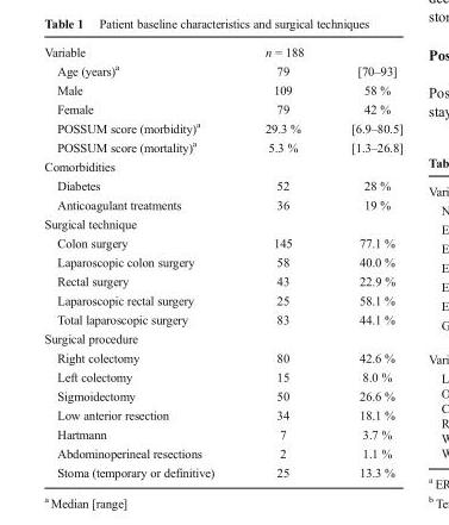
<table><tbody><tr><td>Variable</td><td colspan="2">n = 188</td></tr><tr><td>Age (years)<sup>a</sup></td><td>79</td><td>[70–93]</td></tr><tr><td>Male</td><td>109</td><td>58 %</td></tr><tr><td>Female</td><td>79</td><td>42 %</td></tr><tr><td>POSSUM score (morbidity)<sup>a</sup></td><td>29.3 %</td><td>[6.9–80.5]</td></tr><tr><td>POSSUM score (mortality)<sup>a</sup></td><td>5.3 %</td><td>[1.3–26.8]</td></tr><tr><td colspan="3">Comorbidities</td></tr><tr><td>Diabetes</td><td>52</td><td>28 %</td></tr><tr><td>Anticoagulant treatments</td><td>36</td><td>19 %</td></tr><tr><td colspan="3">Surgical technique</td></tr><tr><td>Colon surgery</td><td>145</td><td>77.1 %</td></tr><tr><td>Laparoscopic colon surgery</td><td>58</td><td>40.0 %</td></tr><tr><td>Rectal surgery</td><td>43</td><td>22.9 %</td></tr><tr><td>Laparoscopic rectal surgery</td><td>25</td><td>58.1 %</td></tr><tr><td>Total laparoscopic surgery</td><td>83</td><td>44.1 %</td></tr><tr><td colspan="3">Surgical procedure</td></tr><tr><td>Right colectomy</td><td>80</td><td>42.6 %</td></tr><tr><td>Left colectomy</td><td>15</td><td>8.0 %</td></tr><tr><td>Sigmoidectomy</td><td>50</td><td>26.6 %</td></tr><tr><td>Low anterior resection</td><td>34</td><td>18.1 %</td></tr><tr><td>Hartmann</td><td>7</td><td>3.7 %</td></tr><tr><td>Abdominoperineal resections</td><td>2</td><td>1.1 %</td></tr><tr><td>Stoma (temporary or definitive)</td><td>25</td><td>13.3 %</td></tr></tbody></table>